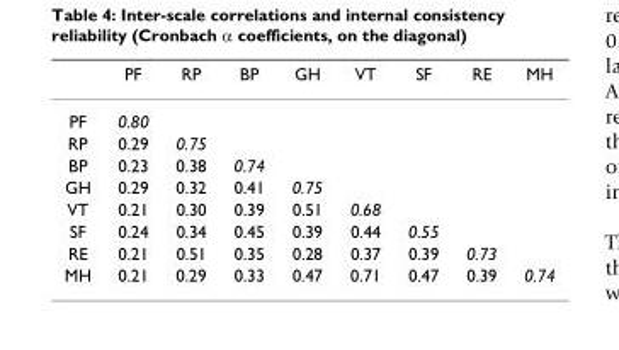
<table><thead><tr><td></td><td>PF</td><td>RP</td><td>BP</td><td>GH</td><td>VT</td><td>SF</td><td>RE</td><td>MH</td></tr></thead><tbody><tr><td>PF</td><td>0.80</td><td></td><td></td><td></td><td></td><td></td><td></td><td></td></tr><tr><td>RP</td><td>0.29</td><td>0.75</td><td></td><td></td><td></td><td></td><td></td><td></td></tr><tr><td>BP</td><td>0.23</td><td>0.38</td><td>0.74</td><td></td><td></td><td></td><td></td><td></td></tr><tr><td>GH</td><td>0.29</td><td>0.32</td><td>0.41</td><td>0.75</td><td></td><td></td><td></td><td></td></tr><tr><td>VT</td><td>0.21</td><td>0.30</td><td>0.39</td><td>0.51</td><td>0.68</td><td></td><td></td><td></td></tr><tr><td>SF</td><td>0.24</td><td>0.34</td><td>0.45</td><td>0.39</td><td>0.44</td><td>0.55</td><td></td><td></td></tr><tr><td>RE</td><td>0.21</td><td>0.51</td><td>0.35</td><td>0.28</td><td>0.37</td><td>0.39</td><td>0.73</td><td></td></tr><tr><td>MH</td><td>0.21</td><td>0.29</td><td>0.33</td><td>0.47</td><td>0.71</td><td>0.47</td><td>0.39</td><td>0.74</td></tr></tbody></table>